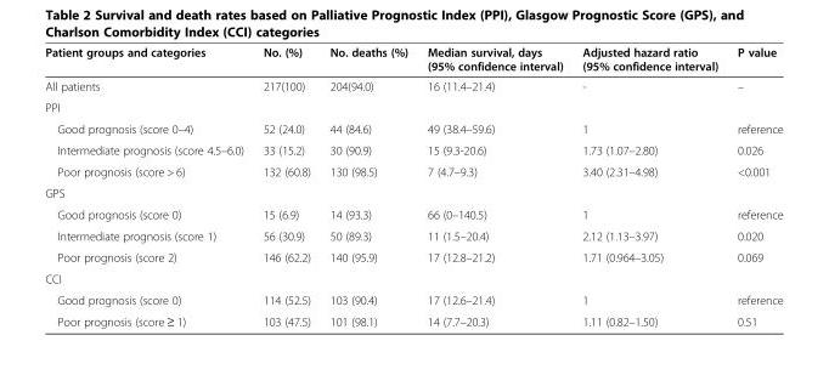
<table><thead><tr><td>Patient groups and categories</td><td>No. (%)</td><td>No. deaths (%)</td><td>Median survival, days (95% confidence interval)</td><td>Adjusted hazard ratio (95% confidence interval)</td><td>P value</td></tr></thead><tbody><tr><td>All patients</td><td>217(100)</td><td>204(94.0)</td><td>16 (11.4–21.4)</td><td>-</td><td>–</td></tr><tr><td colspan="6">PPI</td></tr><tr><td>Good prognosis (score 0–4)</td><td>52 (24.0)</td><td>44 (84.6)</td><td>49 (38.4–59.6)</td><td>1</td><td>reference</td></tr><tr><td>Intermediate prognosis (score 4.5–6.0)</td><td>33 (15.2)</td><td>30 (90.9)</td><td>15 (9.3-20.6)</td><td>1.73 (1.07–2.80)</td><td>0.026</td></tr><tr><td>Poor prognosis (score &gt; 6)</td><td>132 (60.8)</td><td>130 (98.5)</td><td>7 (4.7–9.3)</td><td>3.40 (2.31–4.98)</td><td>&lt;0.001</td></tr><tr><td colspan="6">GPS</td></tr><tr><td>Good prognosis (score 0)</td><td>15 (6.9)</td><td>14 (93.3)</td><td>66 (0–140.5)</td><td>1</td><td>reference</td></tr><tr><td>Intermediate prognosis (score 1)</td><td>56 (30.9)</td><td>50 (89.3)</td><td>11 (1.5–20.4)</td><td>2.12 (1.13–3.97)</td><td>0.020</td></tr><tr><td>Poor prognosis (score 2)</td><td>146 (62.2)</td><td>140 (95.9)</td><td>17 (12.8–21.2)</td><td>1.71 (0.964–3.05)</td><td>0.069</td></tr><tr><td colspan="6">CCI</td></tr><tr><td>Good prognosis (score 0)</td><td>114 (52.5)</td><td>103 (90.4)</td><td>17 (12.6–21.4)</td><td>1</td><td>reference</td></tr><tr><td>Poor prognosis (score ≥ 1)</td><td>103 (47.5)</td><td>101 (98.1)</td><td>14 (7.7–20.3)</td><td>1.11 (0.82–1.50)</td><td>0.51</td></tr></tbody></table>